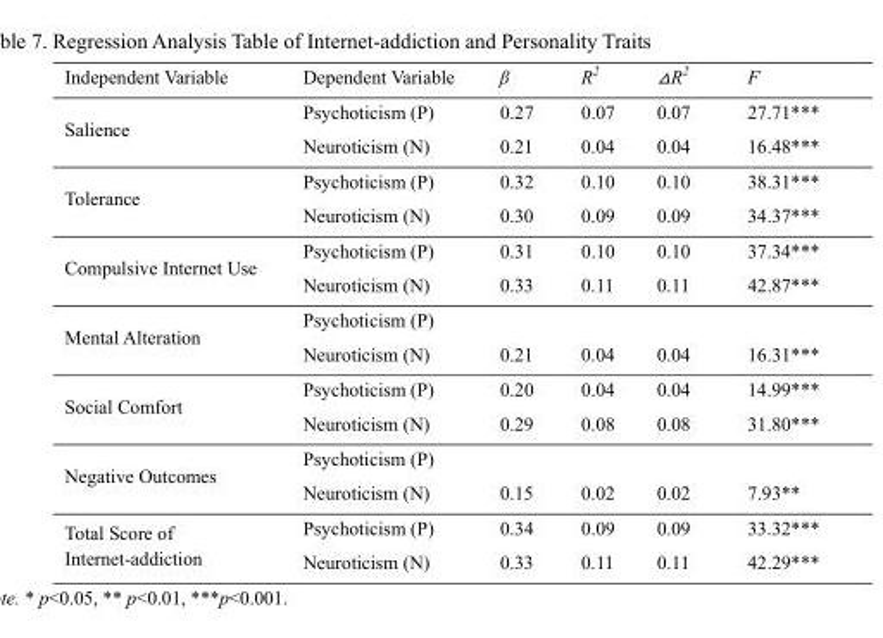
<table><thead><tr><td>Independent Variable</td><td>Dependent Variable</td><td>β</td><td>R<sup>2</sup></td><td>△R2</td><td>F</td></tr></thead><tbody><tr><td rowspan="2">Salience</td><td>Psychoticism (P)</td><td>0.27</td><td>0.07</td><td>0.07</td><td>27.71***</td></tr><tr><td>Neuroticism (N)</td><td>0.21</td><td>0.04</td><td>0.04</td><td>16.48***</td></tr><tr><td rowspan="2">Tolerance</td><td>Psychoticism (P)</td><td>0.32</td><td>0.10</td><td>0.10</td><td>38.31***</td></tr><tr><td>Neuroticism (N)</td><td>0.30</td><td>0.09</td><td>0.09</td><td>34.37***</td></tr><tr><td rowspan="2">Compulsive Internet Use</td><td>Psychoticism (P)</td><td>0.31</td><td>0.10</td><td>0.10</td><td>37.34***</td></tr><tr><td>Neuroticism (N)</td><td>0.33</td><td>0.11</td><td>0.11</td><td>42.87***</td></tr><tr><td rowspan="2">Mental Alteration</td><td>Psychoticism (P)</td><td></td><td></td><td></td><td></td></tr><tr><td>Neuroticism (N)</td><td>0.21</td><td>0.04</td><td>0.04</td><td>16.31***</td></tr><tr><td rowspan="2">Social Comfort</td><td>Psychoticism (P)</td><td>0.20</td><td>0.04</td><td>0.04</td><td>14.99***</td></tr><tr><td>Neuroticism (N)</td><td>0.29</td><td>0.08</td><td>0.08</td><td>31.80***</td></tr><tr><td rowspan="2">Negative Outcomes</td><td>Psychoticism (P)</td><td></td><td></td><td></td><td></td></tr><tr><td>Neuroticism (N)</td><td>0.15</td><td>0.02</td><td>0.02</td><td>7.93**</td></tr><tr><td rowspan="2">Total Score of Internet-addiction</td><td>Psychoticism (P)</td><td>0.34</td><td>0.09</td><td>0.09</td><td>33.32***</td></tr><tr><td>Neuroticism (N)</td><td>0.33</td><td>0.11</td><td>0.11</td><td>42.29***</td></tr></tbody></table>